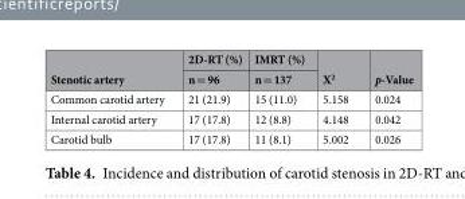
<table><thead><tr><td rowspan="2">Stenotic artery</td><td rowspan="2">2D-RT (%) n = 96</td><td rowspan="2">IMRT (%) n = 137</td><td rowspan="2">X<sup>2</sup></td><td rowspan="2">p-Value</td></tr><tr></tr></thead><tbody><tr><td>Common carotid artery</td><td>21 (21.9)</td><td>15 (11.0)</td><td>5.158</td><td>0.024</td></tr><tr><td>Internal carotid artery</td><td>17 (17.8)</td><td>12 (8.8)</td><td>4.148</td><td>0.042</td></tr><tr><td>Carotid bulb</td><td>17 (17.8)</td><td>11 (8.1)</td><td>5.002</td><td>0.026</td></tr></tbody></table>